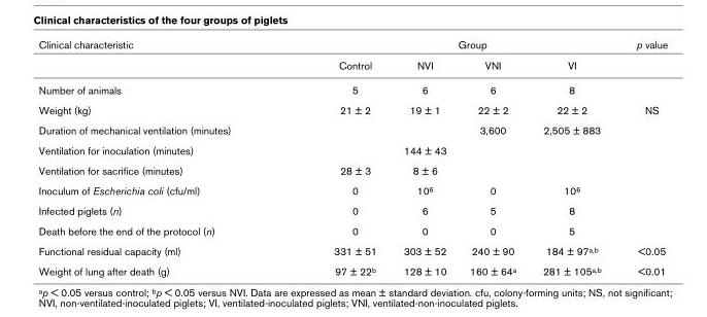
<table><thead><tr><td rowspan="2">Clinical characteristic</td><td colspan="4">Group</td><td rowspan="2">p value</td></tr><tr><td>Control</td><td>NVI</td><td>VNI</td><td>VI</td></tr></thead><tbody><tr><td>Number of animals</td><td>5</td><td>6</td><td>6</td><td>8</td><td></td></tr><tr><td>Weight (kg)</td><td>21 ± 2</td><td>19 ± 1</td><td>22 ± 2</td><td>22 ± 2</td><td>NS</td></tr><tr><td>Duration of mechanical ventilation (minutes)</td><td></td><td></td><td>3,600</td><td>2,505 ± 883</td><td></td></tr><tr><td>Ventilation for inoculation (minutes)</td><td></td><td>144 ± 43</td><td></td><td></td><td></td></tr><tr><td>Ventilation for sacrifice (minutes)</td><td>28 ± 3</td><td>8 ± 6</td><td></td><td></td><td></td></tr><tr><td>Inoculum of Escherichia coli (cfu/ml)</td><td>0</td><td>10<sup>6</sup></td><td>0</td><td>10<sup>6</sup></td><td></td></tr><tr><td>Infected piglets (n)</td><td>0</td><td>6</td><td>5</td><td>8</td><td></td></tr><tr><td>Death before the end of the protocol (n)</td><td>0</td><td>0</td><td>0</td><td>5</td><td></td></tr><tr><td>Functional residual capacity (ml)</td><td>331 ± 51</td><td>303 ± 52</td><td>240 ± 90</td><td>184 ± 97<sup>a,b</sup></td><td>&lt;0.05</td></tr><tr><td>Weight of lung after death (g)</td><td>97 ± 22<sup>b</sup></td><td>128 ± 10</td><td>160 ± 64<sup>a</sup></td><td>281 ± 105<sup>a,b</sup></td><td>&lt;0.01</td></tr></tbody></table>